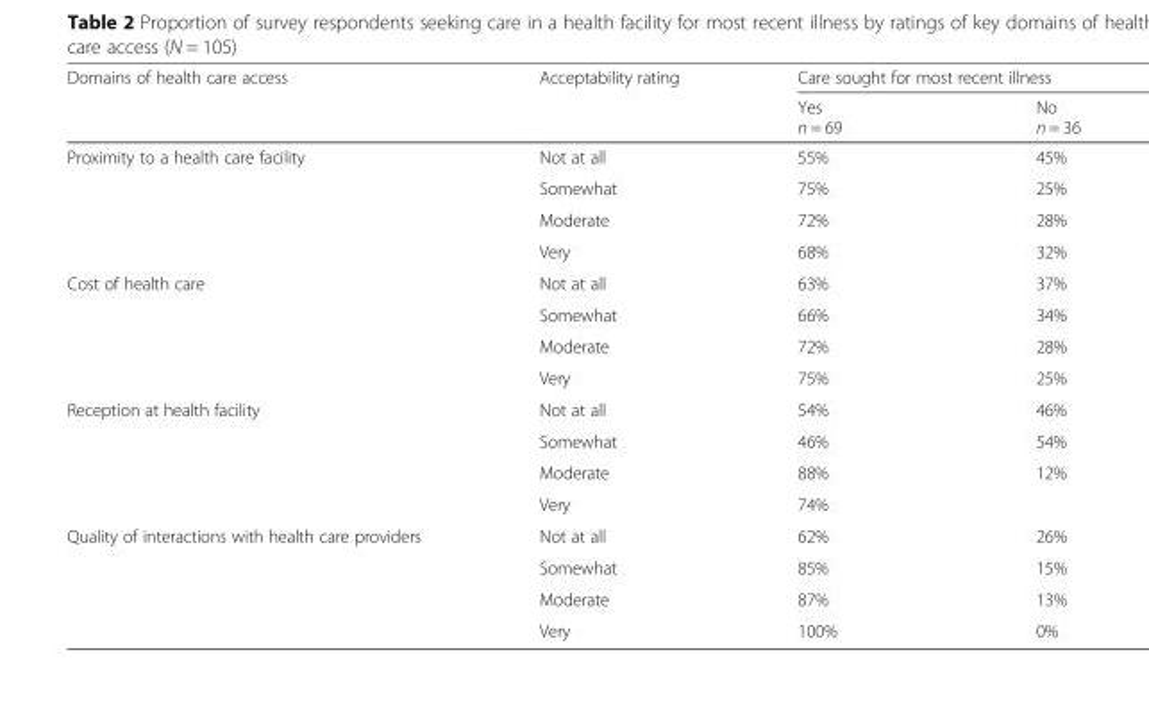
<table><thead><tr><td rowspan="2">Domains of health care access</td><td rowspan="2">Acceptability rating</td><td colspan="2">Care sought for most recent illness</td></tr><tr><td>Yes n = 69</td><td>No n = 36</td></tr></thead><tbody><tr><td rowspan="4">Proximity to a health care facility</td><td>Not at all</td><td>55%</td><td>45%</td></tr><tr><td>Somewhat</td><td>75%</td><td>25%</td></tr><tr><td>Moderate</td><td>72%</td><td>28%</td></tr><tr><td>Very</td><td>68%</td><td>32%</td></tr><tr><td rowspan="4">Cost of health care</td><td>Not at all</td><td>63%</td><td>37%</td></tr><tr><td>Somewhat</td><td>66%</td><td>34%</td></tr><tr><td>Moderate</td><td>72%</td><td>28%</td></tr><tr><td>Very</td><td>75%</td><td>25%</td></tr><tr><td rowspan="4">Reception at health facility</td><td>Not at all</td><td>54%</td><td>46%</td></tr><tr><td>Somewhat</td><td>46%</td><td>54%</td></tr><tr><td>Moderate</td><td>88%</td><td>12%</td></tr><tr><td>Very</td><td>74%</td><td></td></tr><tr><td rowspan="4">Quality of interactions with health care providers</td><td>Not at all</td><td>62%</td><td>26%</td></tr><tr><td>Somewhat</td><td>85%</td><td>15%</td></tr><tr><td>Moderate</td><td>87%</td><td>13%</td></tr><tr><td>Very</td><td>100%</td><td>0%</td></tr></tbody></table>